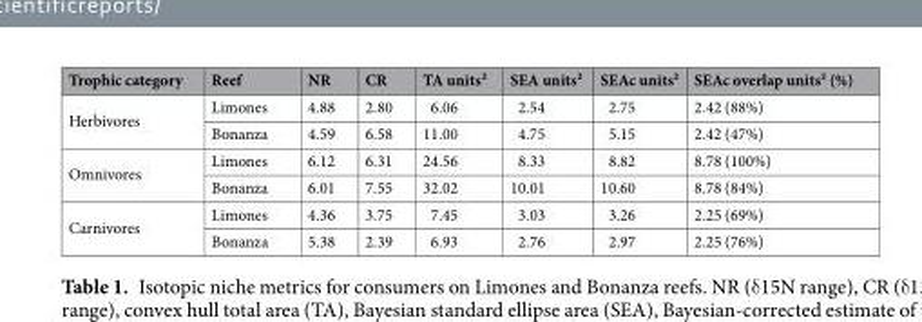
<table><thead><tr><td>Trophic category</td><td>Reef</td><td>NR</td><td>CR</td><td>TA units²</td><td>SEA units²</td><td>SEAc units²</td><td>SEAc overlap units² (%)</td></tr></thead><tbody><tr><td rowspan="2">Herbivores</td><td>Limones</td><td>4.88</td><td>2.80</td><td>6.06</td><td>2.54</td><td>2.75</td><td>2.42 (88%)</td></tr><tr><td>Bonanza</td><td>4.59</td><td>6.58</td><td>11.00</td><td>4.75</td><td>5.15</td><td>2.42 (47%)</td></tr><tr><td rowspan="2">Omnivores</td><td>Limones</td><td>6.12</td><td>6.31</td><td>24.56</td><td>8.33</td><td>8.82</td><td>8.78 (100%)</td></tr><tr><td>Bonanza</td><td>6.01</td><td>7.55</td><td>32.02</td><td>10.01</td><td>10.60</td><td>8.78 (84%)</td></tr><tr><td rowspan="2">Carnivores</td><td>Limones</td><td>4.36</td><td>3.75</td><td>7.45</td><td>3.03</td><td>3.26</td><td>2.25 (69%)</td></tr><tr><td>Bonanza</td><td>5.38</td><td>2.39</td><td>6.93</td><td>2.76</td><td>2.97</td><td>2.25 (76%)</td></tr></tbody></table>